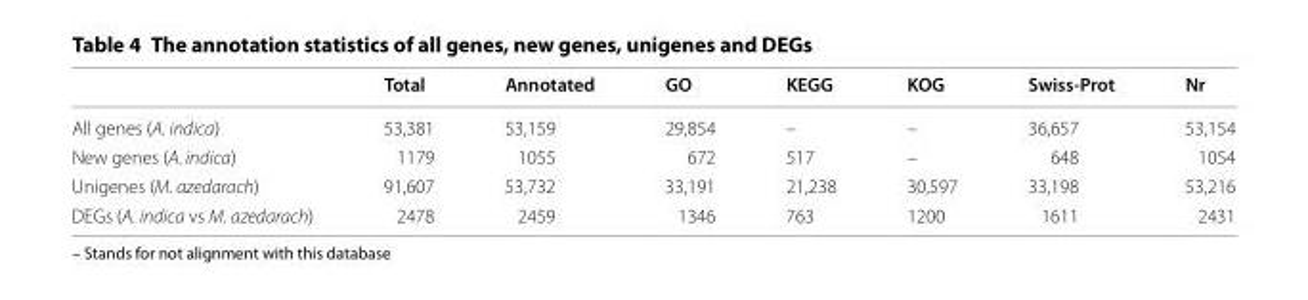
<table><thead><tr><td></td><td>Total</td><td>Annotated</td><td>GO</td><td>KEGG</td><td>KOG</td><td>Swiss‑Prot</td><td>Nr</td></tr></thead><tbody><tr><td>All genes (A. indica)</td><td>53,381</td><td>53,159</td><td>29,854</td><td>–</td><td>–</td><td>36,657</td><td>53,154</td></tr><tr><td>New genes (A. indica)</td><td>1179</td><td>1055</td><td>672</td><td>517</td><td>–</td><td>648</td><td>1054</td></tr><tr><td>Unigenes (M. azedarach)</td><td>91,607</td><td>53,732</td><td>33,191</td><td>21,238</td><td>30,597</td><td>33,198</td><td>53,216</td></tr><tr><td>DEGs (A. indica vs M. azedarach)</td><td>2478</td><td>2459</td><td>1346</td><td>763</td><td>1200</td><td>1611</td><td>2431</td></tr></tbody></table>